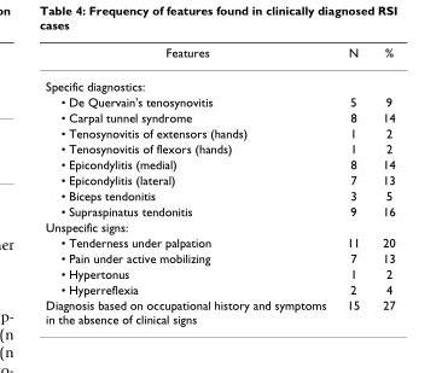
<table><thead><tr><td>Features</td><td>N</td><td>%</td></tr></thead><tbody><tr><td colspan="3">Specific diagnostics:</td></tr><tr><td>• De Quervain&#x27;s tenosynovitis</td><td>5</td><td>9</td></tr><tr><td>• Carpal tunnel syndrome</td><td>8</td><td>14</td></tr><tr><td>• Tenosynovitis of extensors (hands)</td><td>1</td><td>2</td></tr><tr><td>• Tenosynovitis of flexors (hands)</td><td>1</td><td>2</td></tr><tr><td>• Epicondylitis (medial)</td><td>8</td><td>14</td></tr><tr><td>• Epicondylitis (lateral)</td><td>7</td><td>13</td></tr><tr><td>• Biceps tendonitis</td><td>3</td><td>5</td></tr><tr><td>• Supraspinatus tendonitis</td><td>9</td><td>16</td></tr><tr><td colspan="3">Unspecific signs:</td></tr><tr><td>• Tenderness under palpation</td><td>11</td><td>20</td></tr><tr><td>• Pain under active mobilizing</td><td>7</td><td>13</td></tr><tr><td>• Hypertonus</td><td>1</td><td>2</td></tr><tr><td>• Hyperreflexia</td><td>2</td><td>4</td></tr><tr><td>Diagnosis based on occupational history and symptoms in the absence of clinical signs</td><td>15</td><td>27</td></tr></tbody></table>